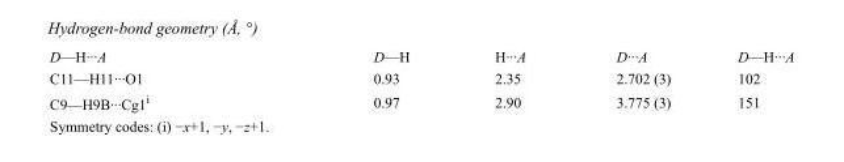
<table><tbody><tr><td>D—H···A</td><td>D—H</td><td>H···A</td><td>D···A</td><td>D—H···A</td></tr><tr><td>C11—H11···O1</td><td>0.93</td><td>2.35</td><td>2.702 (3)</td><td>102</td></tr><tr><td>C9—H9B···Cg1<sup>i</sup></td><td>0.97</td><td>2.90</td><td>3.775 (3)</td><td>151</td></tr></tbody></table>